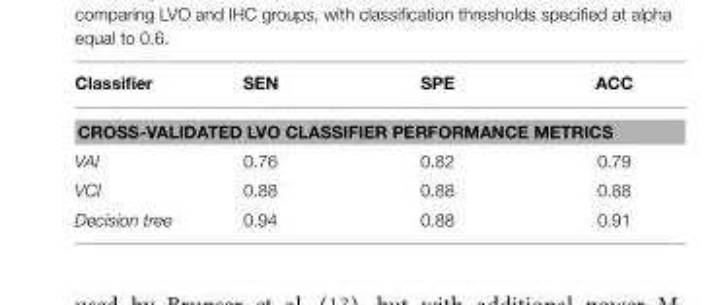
<table><thead><tr><td>Classifier</td><td>SEN</td><td>SPE</td><td>ACC</td></tr></thead><tbody><tr><td colspan="4">CROSS-VALIDATED LVO CLASSIFIER PERFORMANCE METRICS</td></tr><tr><td>VAI</td><td>0.76</td><td>0.82</td><td>0.79</td></tr><tr><td>VCI</td><td>0.88</td><td>0.88</td><td>0.88</td></tr><tr><td>Decision tree</td><td>0.94</td><td>0.88</td><td>0.91</td></tr></tbody></table>